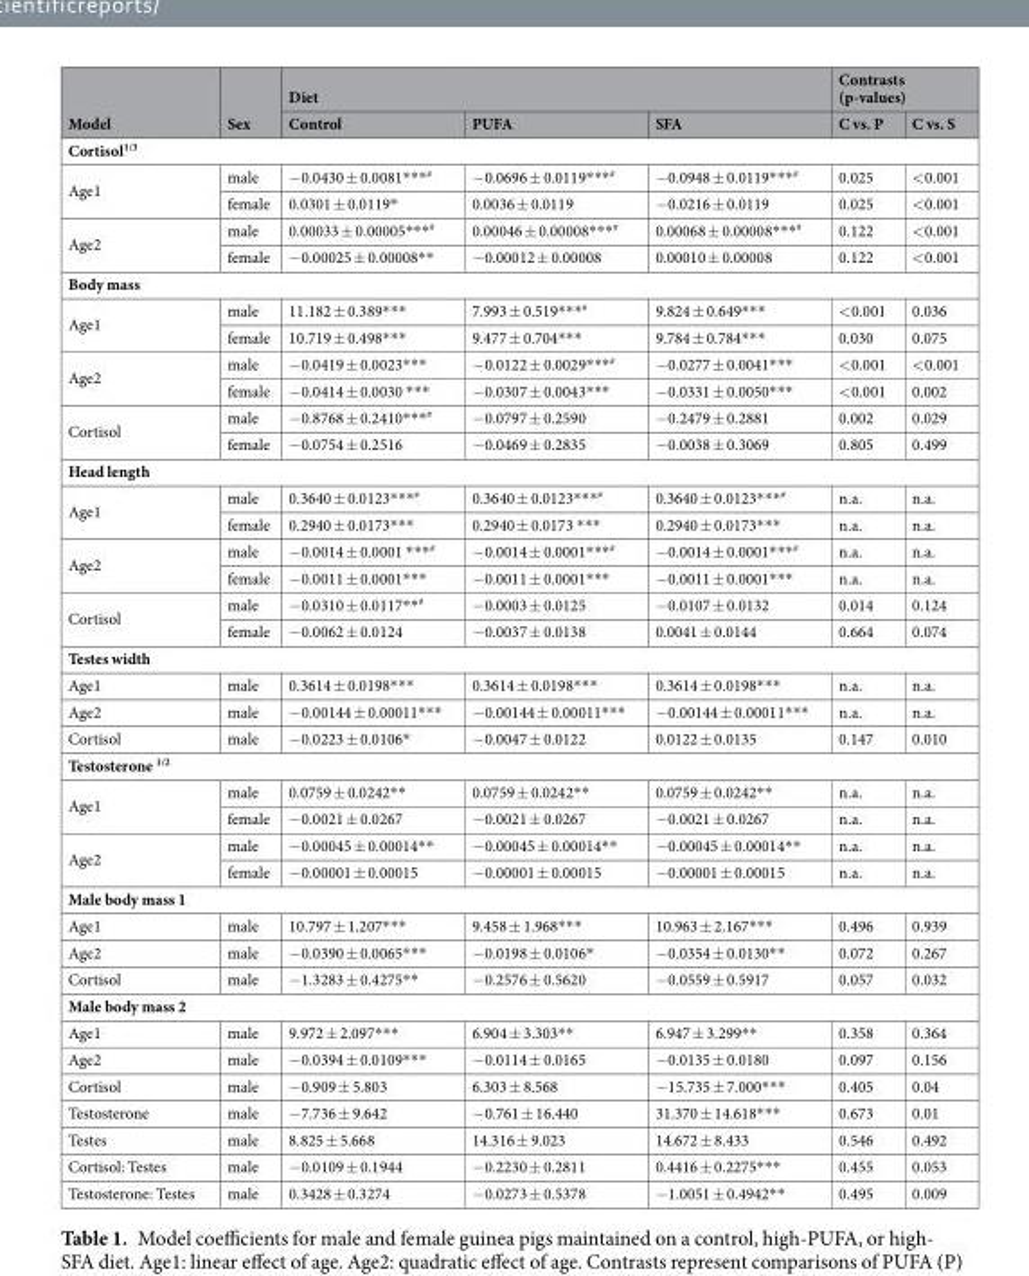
<table><thead><tr><td rowspan="2">Model</td><td rowspan="2">Sex</td><td colspan="3">Diet</td><td colspan="2">Contrasts (p-values)</td></tr><tr><td>Control</td><td>PUFA</td><td>SFA</td><td>C vs. P</td><td>C vs. S</td></tr></thead><tbody><tr><td colspan="7">Cortisol<sup>1/3</sup></td></tr><tr><td rowspan="2">Age1</td><td>male</td><td>−0.0430 ± 0.0081***<sup>#</sup></td><td>−0.0696 ± 0.0119***<sup>#</sup></td><td>−0.0948 ± 0.0119***<sup>#</sup></td><td>0.025</td><td>&lt;0.001</td></tr><tr><td>female</td><td>0.0301 ± 0.0119*</td><td>0.0036 ± 0.0119</td><td>−0.0216 ± 0.0119</td><td>0.025</td><td>&lt;0.001</td></tr><tr><td rowspan="2">Age2</td><td>male</td><td>0.00033 ± 0.00005***<sup>#</sup></td><td>0.00046 ± 0.00008***<sup>#</sup></td><td>0.00068 ± 0.00008***<sup>#</sup></td><td>0.122</td><td>&lt;0.001</td></tr><tr><td>female</td><td>−0.00025 ± 0.00008**</td><td>−0.00012 ± 0.00008</td><td>0.00010 ± 0.00008</td><td>0.122</td><td>&lt;0.001</td></tr><tr><td colspan="7">Body mass</td></tr><tr><td rowspan="2">Age1</td><td>male</td><td>11.182 ± 0.389***</td><td>7.993 ± 0.519***<sup>#</sup></td><td>9.824 ± 0.649***</td><td>&lt;0.001</td><td>0.036</td></tr><tr><td>female</td><td>10.719 ± 0.498***</td><td>9.477 ± 0.704***</td><td>9.784 ± 0.784***</td><td>0.030</td><td>0.075</td></tr><tr><td rowspan="2">Age2</td><td>male</td><td>−0.0419 ± 0.0023***</td><td>−0.0122 ± 0.0029***<sup>#</sup></td><td>−0.0277 ± 0.0041***</td><td>&lt;0.001</td><td>&lt;0.001</td></tr><tr><td>female</td><td>−0.0414 ± 0.0030 ***</td><td>−0.0307 ± 0.0043***</td><td>−0.0331 ± 0.0050***</td><td>&lt;0.001</td><td>0.002</td></tr><tr><td rowspan="2">Cortisol</td><td>male</td><td>−0.8768 ± 0.2410***<sup>#</sup></td><td>−0.0797 ± 0.2590</td><td>−0.2479 ± 0.2881</td><td>0.002</td><td>0.029</td></tr><tr><td>female</td><td>−0.0754 ± 0.2516</td><td>−0.0469 ± 0.2835</td><td>−0.0038 ± 0.3069</td><td>0.805</td><td>0.499</td></tr><tr><td colspan="7">Head length</td></tr><tr><td rowspan="2">Age1</td><td>male</td><td>0.3640 ± 0.0123***<sup>#</sup></td><td>0.3640 ± 0.0123***<sup>#</sup></td><td>0.3640 ± 0.0123***<sup>#</sup></td><td>n.a.</td><td>n.a.</td></tr><tr><td>female</td><td>0.2940 ± 0.0173***</td><td>0.2940 ± 0.0173 ***</td><td>0.2940 ± 0.0173***</td><td>n.a.</td><td>n.a.</td></tr><tr><td rowspan="2">Age2</td><td>male</td><td>−0.0014 ± 0.0001 ***<sup>#</sup></td><td>−0.0014 ± 0.0001***<sup>#</sup></td><td>−0.0014 ± 0.0001***<sup>#</sup></td><td>n.a.</td><td>n.a.</td></tr><tr><td>female</td><td>−0.0011 ± 0.0001***</td><td>−0.0011 ± 0.0001***</td><td>−0.0011 ± 0.0001***</td><td>n.a.</td><td>n.a.</td></tr><tr><td rowspan="2">Cortisol</td><td>male</td><td>−0.0310 ± 0.0117**<sup>#</sup></td><td>−0.0003 ± 0.0125</td><td>−0.0107 ± 0.0132</td><td>0.014</td><td>0.124</td></tr><tr><td>female</td><td>−0.0062 ± 0.0124</td><td>−0.0037 ± 0.0138</td><td>0.0041 ± 0.0144</td><td>0.664</td><td>0.074</td></tr><tr><td colspan="7">Testes width</td></tr><tr><td>Age1</td><td>male</td><td>0.3614 ± 0.0198***</td><td>0.3614 ± 0.0198***</td><td>0.3614 ± 0.0198***</td><td>n.a.</td><td>n.a.</td></tr><tr><td>Age2</td><td>male</td><td>−0.00144 ± 0.00011***</td><td>−0.00144 ± 0.00011***</td><td>−0.00144 ± 0.00011***</td><td>n.a.</td><td>n.a.</td></tr><tr><td>Cortisol</td><td>male</td><td>−0.0223 ± 0.0106*</td><td>−0.0047 ± 0.0122</td><td>0.0122 ± 0.0135</td><td>0.147</td><td>0.010</td></tr><tr><td colspan="7">Testosterone <sup>1/2</sup></td></tr><tr><td rowspan="2">Age1</td><td>male</td><td>0.0759 ± 0.0242**</td><td>0.0759 ± 0.0242**</td><td>0.0759 ± 0.0242**</td><td>n.a.</td><td>n.a.</td></tr><tr><td>female</td><td>−0.0021 ± 0.0267</td><td>−0.0021 ± 0.0267</td><td>−0.0021 ± 0.0267</td><td>n.a.</td><td>n.a.</td></tr><tr><td rowspan="2">Age2</td><td>male</td><td>−0.00045 ± 0.00014**</td><td>−0.00045 ± 0.00014**</td><td>−0.00045 ± 0.00014**</td><td>n.a.</td><td>n.a.</td></tr><tr><td>female</td><td>−0.00001 ± 0.00015</td><td>−0.00001 ± 0.00015</td><td>−0.00001 ± 0.00015</td><td>n.a.</td><td>n.a.</td></tr><tr><td colspan="7">Male body mass 1</td></tr><tr><td>Age1</td><td>male</td><td>10.797 ± 1.207***</td><td>9.458 ± 1.968***</td><td>10.963 ± 2.167***</td><td>0.496</td><td>0.939</td></tr><tr><td>Age2</td><td>male</td><td>−0.0390 ± 0.0065***</td><td>−0.0198 ± 0.0106*</td><td>−0.0354 ± 0.0130**</td><td>0.072</td><td>0.267</td></tr><tr><td>Cortisol</td><td>male</td><td>−1.3283 ± 0.4275**</td><td>−0.2576 ± 0.5620</td><td>−0.0559 ± 0.5917</td><td>0.057</td><td>0.032</td></tr><tr><td colspan="7">Male body mass 2</td></tr><tr><td>Age1</td><td>male</td><td>9.972 ± 2.097***</td><td>6.904 ± 3.303**</td><td>6.947 ± 3.299**</td><td>0.358</td><td>0.364</td></tr><tr><td>Age2</td><td>male</td><td>−0.0394 ± 0.0109***</td><td>−0.0114 ± 0.0165</td><td>−0.0135 ± 0.0180</td><td>0.097</td><td>0.156</td></tr><tr><td>Cortisol</td><td>male</td><td>−0.909 ± 5.803</td><td>6.303 ± 8.568</td><td>−15.735 ± 7.000***</td><td>0.405</td><td>0.04</td></tr><tr><td>Testosterone</td><td>male</td><td>−7.736 ± 9.642</td><td>−0.761 ± 16.440</td><td>31.370 ± 14.618***</td><td>0.673</td><td>0.01</td></tr><tr><td>Testes</td><td>male</td><td>8.825 ± 5.668</td><td>14.316 ± 9.023</td><td>14.672 ± 8.433</td><td>0.546</td><td>0.492</td></tr><tr><td>Cortisol: Testes</td><td>male</td><td>−0.0109 ± 0.1944</td><td>−0.2230 ± 0.2811</td><td>0.4416 ± 0.2275***</td><td>0.455</td><td>0.053</td></tr><tr><td>Testosterone: Testes</td><td>male</td><td>0.3428 ± 0.3274</td><td>−0.0273 ± 0.5378</td><td>−1.0051 ± 0.4942**</td><td>0.495</td><td>0.009</td></tr></tbody></table>